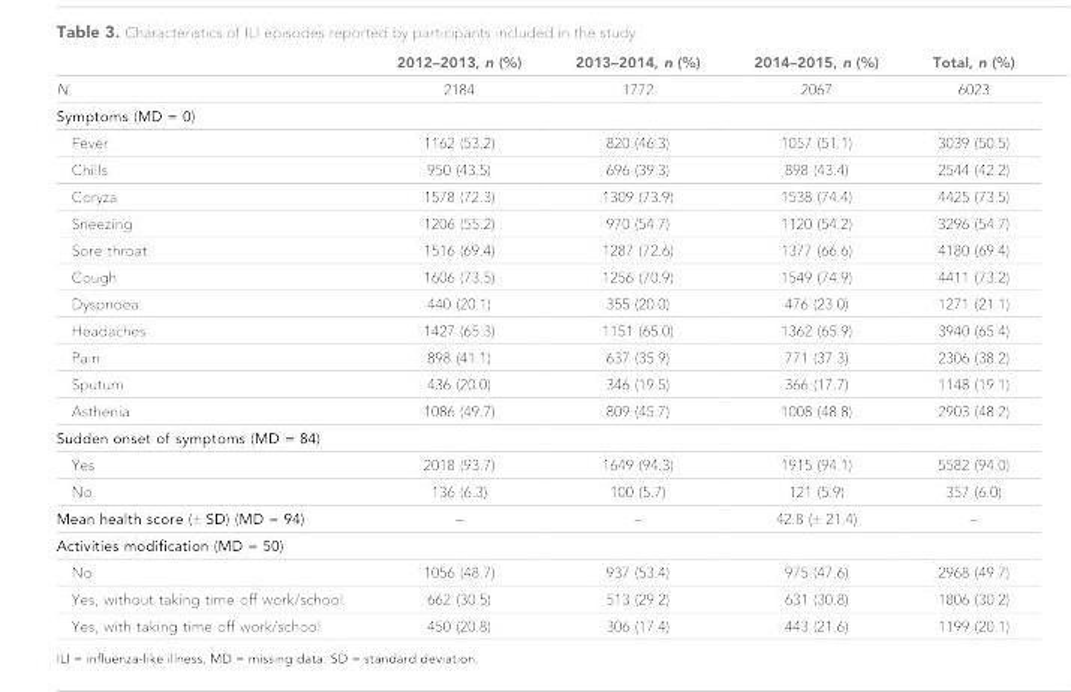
<table><thead><tr><td></td><td>2012–2013, n (%)</td><td>2013–2014, n (%)</td><td>2014–2015, n (%)</td><td>Total, n (%)</td></tr></thead><tbody><tr><td>N</td><td>2184</td><td>1772</td><td>2067</td><td>6023</td></tr><tr><td colspan="5">Symptoms (MD = 0)</td></tr><tr><td>Fever</td><td>1162 (53.2)</td><td>820 (46.3)</td><td>1057 (51.1)</td><td>3039 (50.5)</td></tr><tr><td>Chills</td><td>950 (43.5)</td><td>696 (39.3)</td><td>898 (43.4)</td><td>2544 (42.2)</td></tr><tr><td>Coryza</td><td>1578 (72.3)</td><td>1309 (73.9)</td><td>1538 (74.4)</td><td>4425 (73.5)</td></tr><tr><td>Sneezing</td><td>1206 (55.2)</td><td>970 (54.7)</td><td>1120 (54.2)</td><td>3296 (54.7)</td></tr><tr><td>Sore throat</td><td>1516 (69.4)</td><td>1287 (72.6)</td><td>1377 (66.6)</td><td>4180 (69.4)</td></tr><tr><td>Cough</td><td>1606 (73.5)</td><td>1256 (70.9)</td><td>1549 (74.9)</td><td>4411 (73.2)</td></tr><tr><td>Dyspnoea</td><td>440 (20.1)</td><td>355 (20.0)</td><td>476 (23.0)</td><td>1271 (21.1)</td></tr><tr><td>Headaches</td><td>1427 (65.3)</td><td>1151 (65.0)</td><td>1362 (65.9)</td><td>3940 (65.4)</td></tr><tr><td>Pain</td><td>898 (41.1)</td><td>637 (35.9)</td><td>771 (37.3)</td><td>2306 (38.2)</td></tr><tr><td>Sputum</td><td>436 (20.0)</td><td>346 (19.5)</td><td>366 (17.7)</td><td>1148 (19.1)</td></tr><tr><td>Asthenia</td><td>1086 (49.7)</td><td>809 (45.7)</td><td>1008 (48.8)</td><td>2903 (48.2)</td></tr><tr><td colspan="5">Sudden onset of symptoms (MD = 84)</td></tr><tr><td>Yes</td><td>2018 (93.7)</td><td>1649 (94.3)</td><td>1915 (94.1)</td><td>5582 (94.0)</td></tr><tr><td>No</td><td>136 (6.3)</td><td>100 (5.7)</td><td>121 (5.9)</td><td>357 (6.0)</td></tr><tr><td>Mean health score (± SD) (MD = 94)</td><td>–</td><td>–</td><td>42.8 (± 21.4)</td><td>–</td></tr><tr><td colspan="5">Activities modification (MD = 50)</td></tr><tr><td>No</td><td>1056 (48.7)</td><td>937 (53.4)</td><td>975 (47.6)</td><td>2968 (49.7)</td></tr><tr><td>Yes, without taking time off work/school</td><td>662 (30.5)</td><td>513 (29.2)</td><td>631 (30.8)</td><td>1806 (30.2)</td></tr><tr><td>Yes, with taking time off work/school</td><td>450 (20.8)</td><td>306 (17.4)</td><td>443 (21.6)</td><td>1199 (20.1)</td></tr></tbody></table>